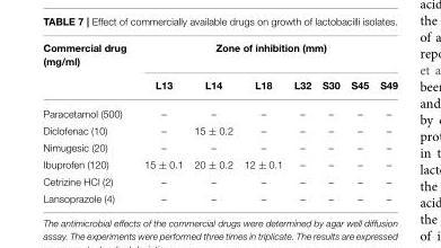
<table><thead><tr><td rowspan="2">Commercial drug (mg/ml)</td><td colspan="7">Zone of inhibition (mm)</td></tr><tr><td>L13</td><td>L14</td><td>L18</td><td>L32</td><td>S30</td><td>S45</td><td>S49</td></tr></thead><tbody><tr><td>Paracetamol (500)</td><td>–</td><td>–</td><td>–</td><td>–</td><td>–</td><td>–</td><td>–</td></tr><tr><td>Diclofenac (10)</td><td>–</td><td>15 ± 0.2</td><td>–</td><td>–</td><td>–</td><td>–</td><td>–</td></tr><tr><td>Nimugesic (20)</td><td>–</td><td>–</td><td>–</td><td>–</td><td>–</td><td>–</td><td>–</td></tr><tr><td>Ibuprofen (120)</td><td>15 ± 0.1</td><td>20 ± 0.2</td><td>12 ± 0.1</td><td>–</td><td>–</td><td>–</td><td>–</td></tr><tr><td>Cetrizine HCl (2)</td><td>–</td><td>–</td><td>–</td><td>–</td><td>–</td><td>–</td><td>–</td></tr><tr><td>Lansoprazole (4)</td><td>–</td><td>–</td><td>–</td><td>–</td><td>–</td><td>–</td><td>–</td></tr></tbody></table>